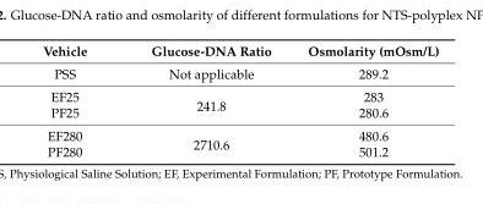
<table><thead><tr><td>Vehicle</td><td>Glucose-DNA Ratio</td><td>Osmolarity (mOsm/L)</td></tr></thead><tbody><tr><td>PSS</td><td>Not applicable</td><td>289.2</td></tr><tr><td>EF25</td><td rowspan="2">241.8</td><td>283</td></tr><tr><td>PF25</td><td>280.6</td></tr><tr><td>EF280</td><td rowspan="2">2710.6</td><td>480.6</td></tr><tr><td>PF280</td><td>501.2</td></tr></tbody></table>